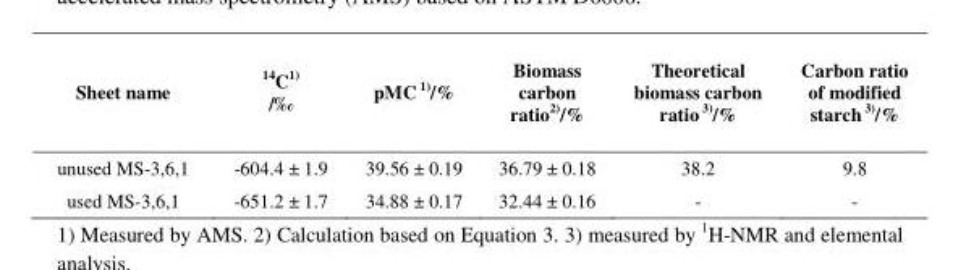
<table><thead><tr><td>Sheet name</td><td><sup>14</sup>C1) /‰</td><td>pMC 1)/%</td><td>Biomass carbon ratio2)/%</td><td>Theoretical biomass carbon ratio 3)/%</td><td>Carbon ratio of modified starch 3)/%</td></tr></thead><tbody><tr><td>unused MS-3,6,1</td><td>-604.4 ± 1.9</td><td>39.56 ± 0.19</td><td>36.79 ± 0.18</td><td>38.2</td><td>9.8</td></tr><tr><td>used MS-3,6,1</td><td>-651.2 ± 1.7</td><td>34.88 ± 0.17</td><td>32.44 ± 0.16</td><td>-</td><td>-</td></tr></tbody></table>